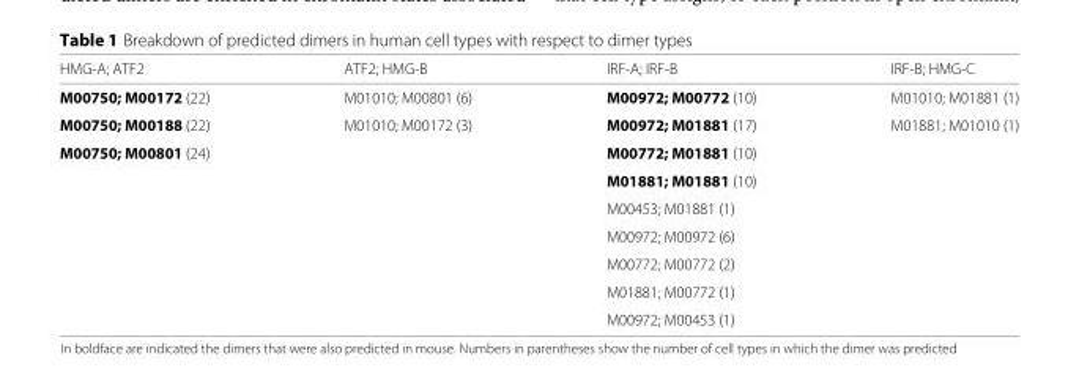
<table><thead><tr><td>HMG-A; ATF2</td><td>ATF2; HMG-B</td><td>IRF-A; IRF-B</td><td>IRF-B; HMG-C</td></tr></thead><tbody><tr><td>M00750; M00172 (22)</td><td>M01010; M00801 (6)</td><td>M00972; M00772 (10)</td><td>M01010; M01881 (1)</td></tr><tr><td>M00750; M00188 (22)</td><td>M01010; M00172 (3)</td><td>M00972; M01881 (17)</td><td>M01881; M01010 (1)</td></tr><tr><td rowspan="7">M00750; M00801 (24)</td><td></td><td>M00772; M01881 (10)</td><td></td></tr><tr><td></td><td>M01881; M01881 (10)</td><td></td></tr><tr><td></td><td>M00453; M01881 (1)</td><td></td></tr><tr><td></td><td>M00972; M00972 (6)</td><td></td></tr><tr><td></td><td>M00772; M00772 (2)</td><td></td></tr><tr><td></td><td>M01881; M00772 (1)</td><td></td></tr><tr><td></td><td>M00972; M00453 (1)</td><td></td></tr></tbody></table>